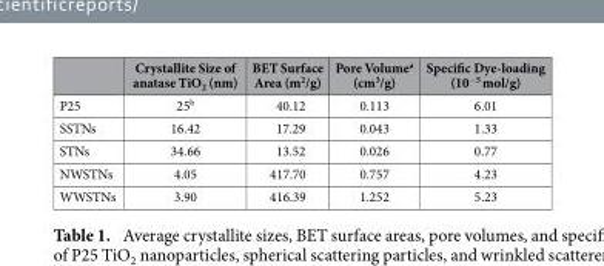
<table><thead><tr><td></td><td>Crystallite Size of anatase TiO<sub>2</sub> (nm)</td><td>BET Surface Area (m<sup>2</sup>/g)</td><td>Pore Volume<sup>a</sup> (cm<sup>3</sup>/g)</td><td>Specific Dye-loading (10<sup>−5</sup> mol/g)</td></tr></thead><tbody><tr><td>P25</td><td>25<sup>b</sup></td><td>40.12</td><td>0.113</td><td>6.01</td></tr><tr><td>SSTNs</td><td>16.42</td><td>17.29</td><td>0.043</td><td>1.33</td></tr><tr><td>STNs</td><td>34.66</td><td>13.52</td><td>0.026</td><td>0.77</td></tr><tr><td>NWSTNs</td><td>4.05</td><td>417.70</td><td>0.757</td><td>4.23</td></tr><tr><td>WWSTNs</td><td>3.90</td><td>416.39</td><td>1.252</td><td>5.23</td></tr></tbody></table>